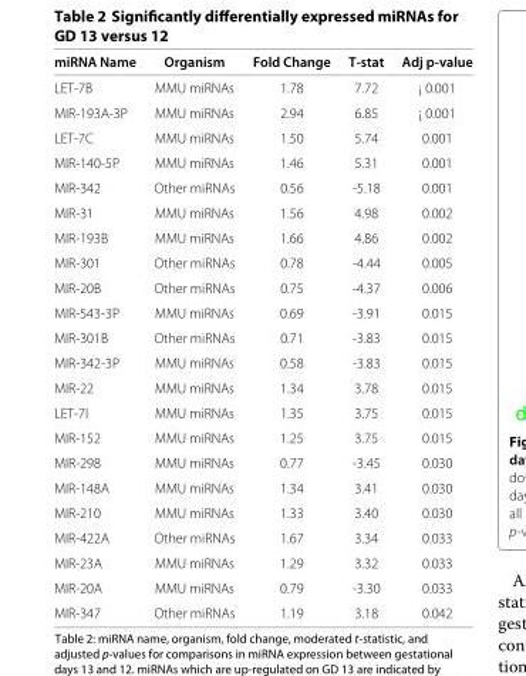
<table><thead><tr><td>miRNA Name</td><td>Organism</td><td>Fold Change</td><td>T-stat</td><td>Adj p-value</td></tr></thead><tbody><tr><td>LET-7B</td><td>MMU miRNAs</td><td>1.78</td><td>7.72</td><td>¡ 0.001</td></tr><tr><td>MIR-193A-3P</td><td>MMU miRNAs</td><td>2.94</td><td>6.85</td><td>¡ 0.001</td></tr><tr><td>LET-7C</td><td>MMU miRNAs</td><td>1.50</td><td>5.74</td><td>0.001</td></tr><tr><td>MIR-140-5P</td><td>MMU miRNAs</td><td>1.46</td><td>5.31</td><td>0.001</td></tr><tr><td>MIR-342</td><td>Other miRNAs</td><td>0.56</td><td>-5.18</td><td>0.001</td></tr><tr><td>MIR-31</td><td>MMU miRNAs</td><td>1.56</td><td>4.98</td><td>0.002</td></tr><tr><td>MIR-193B</td><td>MMU miRNAs</td><td>1.66</td><td>4.86</td><td>0.002</td></tr><tr><td>MIR-301</td><td>Other miRNAs</td><td>0.78</td><td>-4.44</td><td>0.005</td></tr><tr><td>MIR-20B</td><td>Other miRNAs</td><td>0.75</td><td>-4.37</td><td>0.006</td></tr><tr><td>MIR-543-3P</td><td>MMU miRNAs</td><td>0.69</td><td>-3.91</td><td>0.015</td></tr><tr><td>MIR-301B</td><td>Other miRNAs</td><td>0.71</td><td>-3.83</td><td>0.015</td></tr><tr><td>MIR-342-3P</td><td>MMU miRNAs</td><td>0.58</td><td>-3.83</td><td>0.015</td></tr><tr><td>MIR-22</td><td>MMU miRNAs</td><td>1.34</td><td>3.78</td><td>0.015</td></tr><tr><td>LET-7I</td><td>MMU miRNAs</td><td>1.35</td><td>3.75</td><td>0.015</td></tr><tr><td>MIR-152</td><td>MMU miRNAs</td><td>1.25</td><td>3.75</td><td>0.015</td></tr><tr><td>MIR-298</td><td>MMU miRNAs</td><td>0.77</td><td>-3.45</td><td>0.030</td></tr><tr><td>MIR-148A</td><td>MMU miRNAs</td><td>1.34</td><td>3.41</td><td>0.030</td></tr><tr><td>MIR-210</td><td>MMU miRNAs</td><td>1.33</td><td>3.40</td><td>0.030</td></tr><tr><td>MIR-422A</td><td>Other miRNAs</td><td>1.67</td><td>3.34</td><td>0.033</td></tr><tr><td>MIR-23A</td><td>MMU miRNAs</td><td>1.29</td><td>3.32</td><td>0.033</td></tr><tr><td>MIR-20A</td><td>MMU miRNAs</td><td>0.79</td><td>-3.30</td><td>0.033</td></tr><tr><td>MIR-347</td><td>Other miRNAs</td><td>1.19</td><td>3.18</td><td>0.042</td></tr></tbody></table>